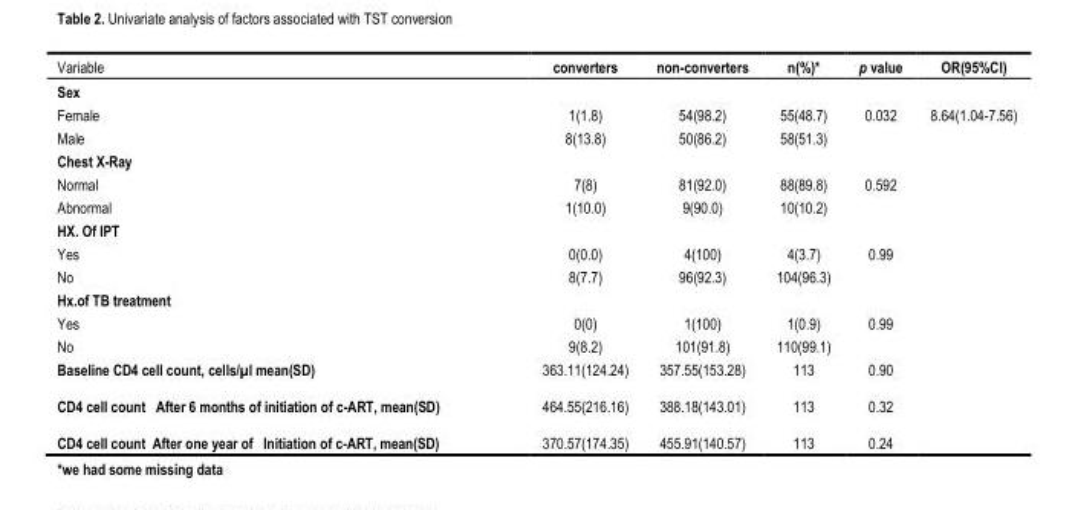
<table><thead><tr><td>Variable</td><td>converters</td><td>non-converters</td><td>n(%)*</td><td>p value</td><td>OR(95%CI)</td></tr></thead><tbody><tr><td colspan="6">Sex</td></tr><tr><td>Female</td><td>1(1.8)</td><td>54(98.2)</td><td>55(48.7)</td><td>0.032</td><td>8.64(1.04-7.56)</td></tr><tr><td>Male</td><td>8(13.8)</td><td>50(86.2)</td><td>58(51.3)</td><td></td><td></td></tr><tr><td colspan="6">Chest X-Ray</td></tr><tr><td>Normal</td><td>7(8)</td><td>81(92.0)</td><td>88(89.8)</td><td>0.592</td><td></td></tr><tr><td>Abnormal</td><td>1(10.0)</td><td>9(90.0)</td><td>10(10.2)</td><td></td><td></td></tr><tr><td colspan="6">HX. Of IPT</td></tr><tr><td>Yes</td><td>0(0.0)</td><td>4(100)</td><td>4(3.7)</td><td>0.99</td><td></td></tr><tr><td>No</td><td>8(7.7)</td><td>96(92.3)</td><td>104(96.3)</td><td></td><td></td></tr><tr><td colspan="6">Hx.of TB treatment</td></tr><tr><td>Yes</td><td>0(0)</td><td>1(100)</td><td>1(0.9)</td><td>0.99</td><td></td></tr><tr><td>No</td><td>9(8.2)</td><td>101(91.8)</td><td>110(99.1)</td><td></td><td></td></tr><tr><td>Baseline CD4 cell count, cells/µl mean(SD)</td><td>363.11(124.24)</td><td>357.55(153.28)</td><td>113</td><td>0.90</td><td></td></tr><tr><td>CD4 cell count After 6 months of initiation of c-ART, mean(SD)</td><td>464.55(216.16)</td><td>388.18(143.01)</td><td>113</td><td>0.32</td><td></td></tr><tr><td>CD4 cell count After one year of Initiation of c-ART, mean(SD)</td><td>370.57(174.35)</td><td>455.91(140.57)</td><td>113</td><td>0.24</td><td></td></tr></tbody></table>